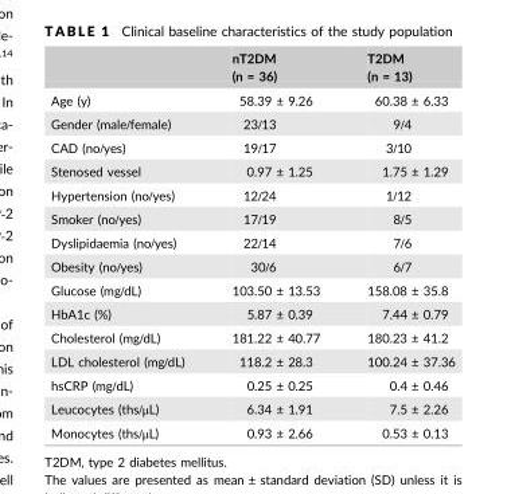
<table><thead><tr><td></td><td>nT2DM (n = 36)</td><td>T2DM (n = 13)</td></tr></thead><tbody><tr><td>Age (y)</td><td>58.39 ± 9.26</td><td>60.38 ± 6.33</td></tr><tr><td>Gender (male/female)</td><td>23/13</td><td>9/4</td></tr><tr><td>CAD (no/yes)</td><td>19/17</td><td>3/10</td></tr><tr><td>Stenosed vessel</td><td>0.97 ± 1.25</td><td>1.75 ± 1.29</td></tr><tr><td>Hypertension (no/yes)</td><td>12/24</td><td>1/12</td></tr><tr><td>Smoker (no/yes)</td><td>17/19</td><td>8/5</td></tr><tr><td>Dyslipidaemia (no/yes)</td><td>22/14</td><td>7/6</td></tr><tr><td>Obesity (no/yes)</td><td>30/6</td><td>6/7</td></tr><tr><td>Glucose (mg/dL)</td><td>103.50 ± 13.53</td><td>158.08 ± 35.8</td></tr><tr><td>HbA1c (%)</td><td>5.87 ± 0.39</td><td>7.44 ± 0.79</td></tr><tr><td>Cholesterol (mg/dL)</td><td>181.22 ± 40.77</td><td>180.23 ± 41.2</td></tr><tr><td>LDL cholesterol (mg/dL)</td><td>118.2 ± 28.3</td><td>100.24 ± 37.36</td></tr><tr><td>hsCRP (mg/dL)</td><td>0.25 ± 0.25</td><td>0.4 ± 0.46</td></tr><tr><td>Leucocytes (ths/μL)</td><td>6.34 ± 1.91</td><td>7.5 ± 2.26</td></tr><tr><td>Monocytes (ths/μL)</td><td>0.93 ± 2.66</td><td>0.53 ± 0.13</td></tr></tbody></table>